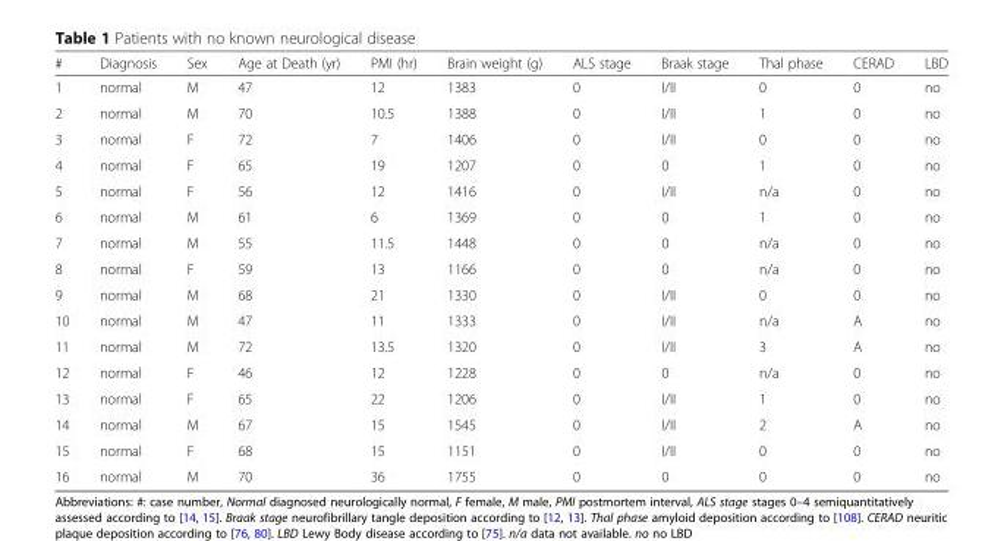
<table><thead><tr><td>#</td><td>Diagnosis</td><td>Sex</td><td>Age at Death (yr)</td><td>PMI (hr)</td><td>Brain weight (g)</td><td>ALS stage</td><td>Braak stage</td><td>Thal phase</td><td>CERAD</td><td>LBD</td></tr></thead><tbody><tr><td>1</td><td>normal</td><td>M</td><td>47</td><td>12</td><td>1383</td><td>0</td><td>I/II</td><td>0</td><td>0</td><td>no</td></tr><tr><td>2</td><td>normal</td><td>M</td><td>70</td><td>10.5</td><td>1388</td><td>0</td><td>I/II</td><td>1</td><td>0</td><td>no</td></tr><tr><td>3</td><td>normal</td><td>F</td><td>72</td><td>7</td><td>1406</td><td>0</td><td>I/II</td><td>0</td><td>0</td><td>no</td></tr><tr><td>4</td><td>normal</td><td>F</td><td>65</td><td>19</td><td>1207</td><td>0</td><td>0</td><td>1</td><td>0</td><td>no</td></tr><tr><td>5</td><td>normal</td><td>F</td><td>56</td><td>12</td><td>1416</td><td>0</td><td>I/II</td><td>n/a</td><td>0</td><td>no</td></tr><tr><td>6</td><td>normal</td><td>M</td><td>61</td><td>6</td><td>1369</td><td>0</td><td>0</td><td>1</td><td>0</td><td>no</td></tr><tr><td>7</td><td>normal</td><td>M</td><td>55</td><td>11.5</td><td>1448</td><td>0</td><td>0</td><td>n/a</td><td>0</td><td>no</td></tr><tr><td>8</td><td>normal</td><td>F</td><td>59</td><td>13</td><td>1166</td><td>0</td><td>0</td><td>n/a</td><td>0</td><td>no</td></tr><tr><td>9</td><td>normal</td><td>M</td><td>68</td><td>21</td><td>1330</td><td>0</td><td>I/II</td><td>0</td><td>0</td><td>no</td></tr><tr><td>10</td><td>normal</td><td>M</td><td>47</td><td>11</td><td>1333</td><td>0</td><td>I/II</td><td>n/a</td><td>A</td><td>no</td></tr><tr><td>11</td><td>normal</td><td>M</td><td>72</td><td>13.5</td><td>1320</td><td>0</td><td>I/II</td><td>3</td><td>A</td><td>no</td></tr><tr><td>12</td><td>normal</td><td>F</td><td>46</td><td>12</td><td>1228</td><td>0</td><td>0</td><td>n/a</td><td>0</td><td>no</td></tr><tr><td>13</td><td>normal</td><td>F</td><td>65</td><td>22</td><td>1206</td><td>0</td><td>I/II</td><td>1</td><td>0</td><td>no</td></tr><tr><td>14</td><td>normal</td><td>M</td><td>67</td><td>15</td><td>1545</td><td>0</td><td>I/II</td><td>2</td><td>A</td><td>no</td></tr><tr><td>15</td><td>normal</td><td>F</td><td>68</td><td>15</td><td>1151</td><td>0</td><td>I/II</td><td>0</td><td>0</td><td>no</td></tr><tr><td>16</td><td>normal</td><td>M</td><td>70</td><td>36</td><td>1755</td><td>0</td><td>0</td><td>0</td><td>0</td><td>no</td></tr></tbody></table>